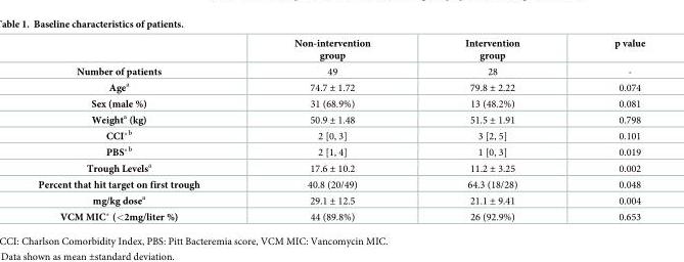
<table><thead><tr><td></td><td>Non-intervention group</td><td>Intervention group</td><td>p value</td></tr></thead><tbody><tr><td>Number of patients</td><td>49</td><td>28</td><td>-</td></tr><tr><td>Age<sup>a</sup></td><td>74.7 ± 1.72</td><td>79.8 ± 2.22</td><td>0.074</td></tr><tr><td>Sex (male %)</td><td>31 (68.9%)</td><td>13 (48.2%)</td><td>0.081</td></tr><tr><td>Weight<sup>a</sup> (kg)</td><td>50.9 ± 1.48</td><td>51.5 ± 1.91</td><td>0.798</td></tr><tr><td>CCI*<sup>b</sup></td><td>2 [0, 3]</td><td>3 [2, 5]</td><td>0.101</td></tr><tr><td>PBS*<sup>b</sup></td><td>2 [1, 4]</td><td>1 [0, 3]</td><td>0.019</td></tr><tr><td>Trough Levels<sup>a</sup></td><td>17.6 ± 10.2</td><td>11.2 ± 3.25</td><td>0.002</td></tr><tr><td>Percent that hit target on first trough</td><td>40.8 (20/49)</td><td>64.3 (18/28)</td><td>0.048</td></tr><tr><td>mg/kg dose<sup>a</sup></td><td>29.1 ± 12.5</td><td>21.1 ± 9.41</td><td>0.004</td></tr><tr><td>VCM MIC* (&lt;2mg/liter %)</td><td>44 (89.8%)</td><td>26 (92.9%)</td><td>0.653</td></tr></tbody></table>